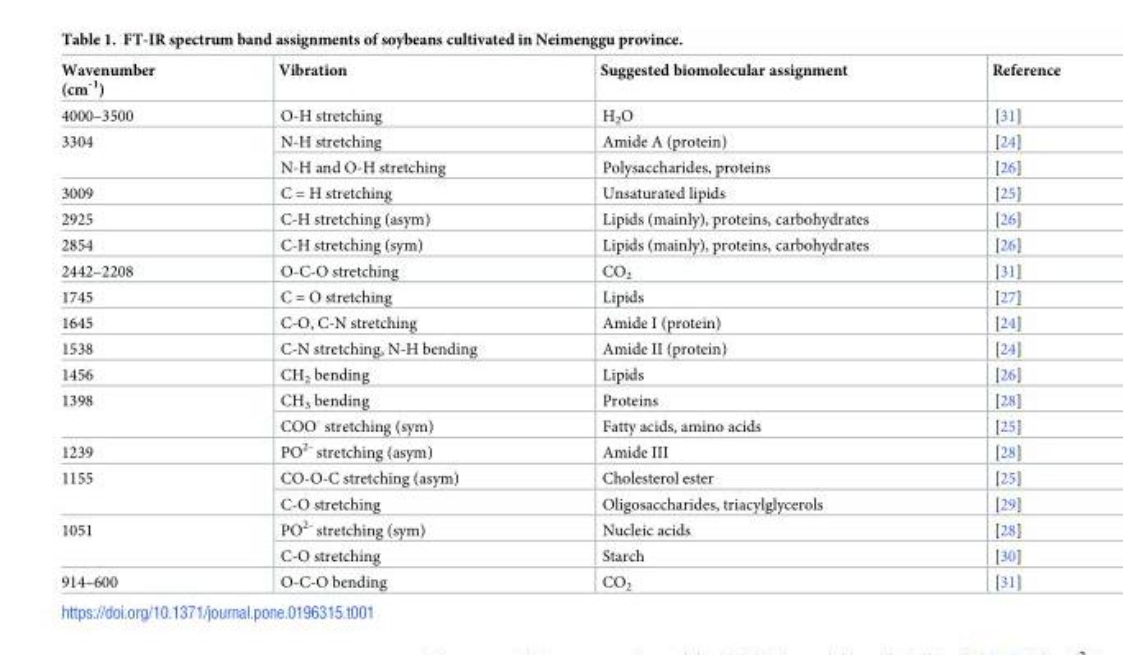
<table><thead><tr><td>Wavenumber (cm<sup>-1</sup>)</td><td>Vibration</td><td>Suggested biomolecular assignment</td><td>Reference</td></tr></thead><tbody><tr><td>4000–3500</td><td>O-H stretching</td><td>H<sub>2</sub>O</td><td>[31]</td></tr><tr><td rowspan="2">3304</td><td>N-H stretching</td><td>Amide A (protein)</td><td>[24]</td></tr><tr><td>N-H and O-H stretching</td><td>Polysaccharides, proteins</td><td>[26]</td></tr><tr><td>3009</td><td>C = H stretching</td><td>Unsaturated lipids</td><td>[25]</td></tr><tr><td>2925</td><td>C-H stretching (asym)</td><td>Lipids (mainly), proteins, carbohydrates</td><td>[26]</td></tr><tr><td>2854</td><td>C-H stretching (sym)</td><td>Lipids (mainly), proteins, carbohydrates</td><td>[26]</td></tr><tr><td>2442–2208</td><td>O-C-O stretching</td><td>CO<sub>2</sub></td><td>[31]</td></tr><tr><td>1745</td><td>C = O stretching</td><td>Lipids</td><td>[27]</td></tr><tr><td>1645</td><td>C-O, C-N stretching</td><td>Amide I (protein)</td><td>[24]</td></tr><tr><td>1538</td><td>C-N stretching, N-H bending</td><td>Amide II (protein)</td><td>[24]</td></tr><tr><td>1456</td><td>CH<sub>2</sub> bending</td><td>Lipids</td><td>[26]</td></tr><tr><td rowspan="2">1398</td><td>CH<sub>3</sub> bending</td><td>Proteins</td><td>[28]</td></tr><tr><td>COO<sup>-</sup> stretching (sym)</td><td>Fatty acids, amino acids</td><td>[25]</td></tr><tr><td>1239</td><td>PO<sup>2-</sup> stretching (asym)</td><td>Amide III</td><td>[28]</td></tr><tr><td rowspan="2">1155</td><td>CO-O-C stretching (asym)</td><td>Cholesterol ester</td><td>[25]</td></tr><tr><td>C-O stretching</td><td>Oligosaccharides, triacylglycerols</td><td>[29]</td></tr><tr><td rowspan="2">1051</td><td>PO<sup>2-</sup> stretching (sym)</td><td>Nucleic acids</td><td>[28]</td></tr><tr><td>C-O stretching</td><td>Starch</td><td>[30]</td></tr><tr><td>914–600</td><td>O-C-O bending</td><td>CO<sub>2</sub></td><td>[31]</td></tr></tbody></table>